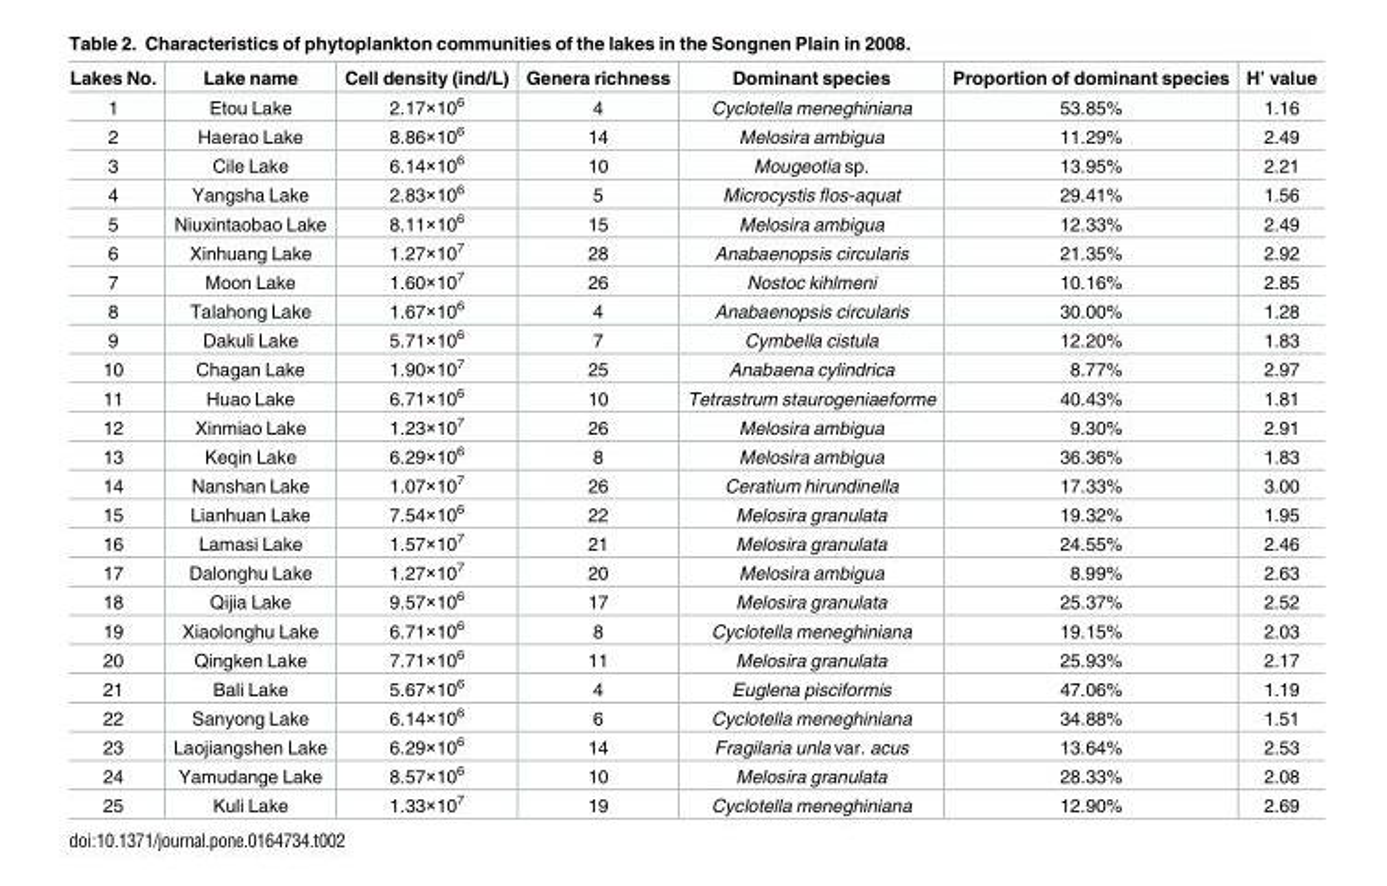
<table><thead><tr><td>Lakes No.</td><td>Lake name</td><td>Cell density (ind/L)</td><td>Genera richness</td><td>Dominant species</td><td>Proportion of dominant species</td><td>H’ value</td></tr></thead><tbody><tr><td>1</td><td>Etou Lake</td><td>2.17×10<sup>6</sup></td><td>4</td><td>Cyclotella meneghiniana</td><td>53.85%</td><td>1.16</td></tr><tr><td>2</td><td>Haerao Lake</td><td>8.86×10<sup>6</sup></td><td>14</td><td>Melosira ambigua</td><td>11.29%</td><td>2.49</td></tr><tr><td>3</td><td>Cile Lake</td><td>6.14×10<sup>6</sup></td><td>10</td><td>Mougeotia sp.</td><td>13.95%</td><td>2.21</td></tr><tr><td>4</td><td>Yangsha Lake</td><td>2.83×10<sup>6</sup></td><td>5</td><td>Microcystis flos-aquat</td><td>29.41%</td><td>1.56</td></tr><tr><td>5</td><td>Niuxintaobao Lake</td><td>8.11×10<sup>6</sup></td><td>15</td><td>Melosira ambigua</td><td>12.33%</td><td>2.49</td></tr><tr><td>6</td><td>Xinhuang Lake</td><td>1.27×10<sup>7</sup></td><td>28</td><td>Anabaenopsis circularis</td><td>21.35%</td><td>2.92</td></tr><tr><td>7</td><td>Moon Lake</td><td>1.60×10<sup>7</sup></td><td>26</td><td>Nostoc kihlmeni</td><td>10.16%</td><td>2.85</td></tr><tr><td>8</td><td>Talahong Lake</td><td>1.67×10<sup>6</sup></td><td>4</td><td>Anabaenopsis circularis</td><td>30.00%</td><td>1.28</td></tr><tr><td>9</td><td>Dakuli Lake</td><td>5.71×10<sup>6</sup></td><td>7</td><td>Cymbella cistula</td><td>12.20%</td><td>1.83</td></tr><tr><td>10</td><td>Chagan Lake</td><td>1.90×10<sup>7</sup></td><td>25</td><td>Anabaena cylindrica</td><td>8.77%</td><td>2.97</td></tr><tr><td>11</td><td>Huao Lake</td><td>6.71×10<sup>6</sup></td><td>10</td><td>Tetrastrum staurogeniaeforme</td><td>40.43%</td><td>1.81</td></tr><tr><td>12</td><td>Xinmiao Lake</td><td>1.23×10<sup>7</sup></td><td>26</td><td>Melosira ambigua</td><td>9.30%</td><td>2.91</td></tr><tr><td>13</td><td>Keqin Lake</td><td>6.29×10<sup>6</sup></td><td>8</td><td>Melosira ambigua</td><td>36.36%</td><td>1.83</td></tr><tr><td>14</td><td>Nanshan Lake</td><td>1.07×10<sup>7</sup></td><td>26</td><td>Ceratium hirundinella</td><td>17.33%</td><td>3.00</td></tr><tr><td>15</td><td>Lianhuan Lake</td><td>7.54×10<sup>6</sup></td><td>22</td><td>Melosira granulata</td><td>19.32%</td><td>1.95</td></tr><tr><td>16</td><td>Lamasi Lake</td><td>1.57×10<sup>7</sup></td><td>21</td><td>Melosira granulata</td><td>24.55%</td><td>2.46</td></tr><tr><td>17</td><td>Dalonghu Lake</td><td>1.27×10<sup>7</sup></td><td>20</td><td>Melosira ambigua</td><td>8.99%</td><td>2.63</td></tr><tr><td>18</td><td>Qijia Lake</td><td>9.57×10<sup>6</sup></td><td>17</td><td>Melosira granulata</td><td>25.37%</td><td>2.52</td></tr><tr><td>19</td><td>Xiaolonghu Lake</td><td>6.71×10<sup>6</sup></td><td>8</td><td>Cyclotella meneghiniana</td><td>19.15%</td><td>2.03</td></tr><tr><td>20</td><td>Qingken Lake</td><td>7.71×10<sup>6</sup></td><td>11</td><td>Melosira granulata</td><td>25.93%</td><td>2.17</td></tr><tr><td>21</td><td>Bali Lake</td><td>5.67×10<sup>6</sup></td><td>4</td><td>Euglena pisciformis</td><td>47.06%</td><td>1.19</td></tr><tr><td>22</td><td>Sanyong Lake</td><td>6.14×10<sup>6</sup></td><td>6</td><td>Cyclotella meneghiniana</td><td>34.88%</td><td>1.51</td></tr><tr><td>23</td><td>Laojiangshen Lake</td><td>6.29×10<sup>6</sup></td><td>14</td><td>Fragilaria unla var. acus</td><td>13.64%</td><td>2.53</td></tr><tr><td>24</td><td>Yamudange Lake</td><td>8.57×10<sup>6</sup></td><td>10</td><td>Melosira granulata</td><td>28.33%</td><td>2.08</td></tr><tr><td>25</td><td>Kuli Lake</td><td>1.33×10<sup>7</sup></td><td>19</td><td>Cyclotella meneghiniana</td><td>12.90%</td><td>2.69</td></tr></tbody></table>